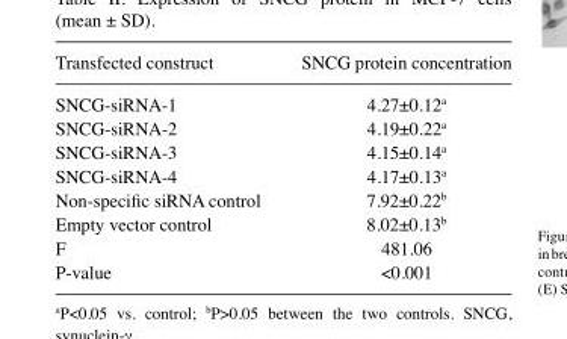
<table><thead><tr><td>Transfected construct</td><td>SNCG protein concentration</td></tr></thead><tbody><tr><td>SNCG-siRNA-1</td><td>4.27±0.12<sup>a</sup></td></tr><tr><td>SNCG-siRNA-2</td><td>4.19±0.22<sup>a</sup></td></tr><tr><td>SNCG-siRNA-3</td><td>4.15±0.14<sup>a</sup></td></tr><tr><td>SNCG-siRNA-4</td><td>4.17±0.13<sup>a</sup></td></tr><tr><td>Non‑specific siRNA control</td><td>7.92±0.22<sup>b</sup></td></tr><tr><td>Empty vector control</td><td>8.02±0.13<sup>b</sup></td></tr><tr><td>F</td><td>481.06</td></tr><tr><td>P-value</td><td>&lt;0.001</td></tr></tbody></table>